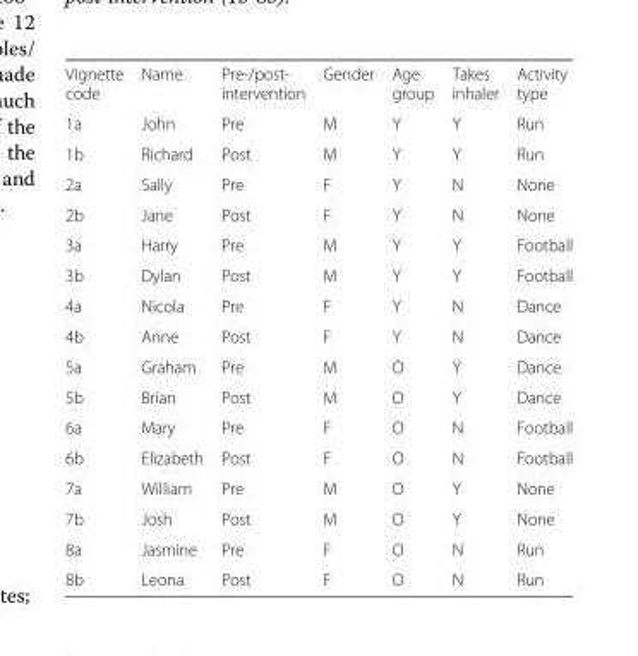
<table><tbody><tr><td>Vignette code</td><td>Name</td><td>Pre-/post- intervention</td><td>Gender</td><td>Age group</td><td>Takes inhaler</td><td>Activity type</td></tr><tr><td>1a</td><td>John</td><td>Pre</td><td>M</td><td>Y</td><td>Y</td><td>Run</td></tr><tr><td>1b</td><td>Richard</td><td>Post</td><td>M</td><td>Y</td><td>Y</td><td>Run</td></tr><tr><td>2a</td><td>Sally</td><td>Pre</td><td>F</td><td>Y</td><td>N</td><td>None</td></tr><tr><td>2b</td><td>Jane</td><td>Post</td><td>F</td><td>Y</td><td>N</td><td>None</td></tr><tr><td>3a</td><td>Harry</td><td>Pre</td><td>M</td><td>Y</td><td>Y</td><td>Football</td></tr><tr><td>3b</td><td>Dylan</td><td>Post</td><td>M</td><td>Y</td><td>Y</td><td>Football</td></tr><tr><td>4a</td><td>Nicola</td><td>Pre</td><td>F</td><td>Y</td><td>N</td><td>Dance</td></tr><tr><td>4b</td><td>Anne</td><td>Post</td><td>F</td><td>Y</td><td>N</td><td>Dance</td></tr><tr><td>5a</td><td>Graham</td><td>Pre</td><td>M</td><td>O</td><td>Y</td><td>Dance</td></tr><tr><td>5b</td><td>Brian</td><td>Post</td><td>M</td><td>O</td><td>Y</td><td>Dance</td></tr><tr><td>6a</td><td>Mary</td><td>Pre</td><td>F</td><td>O</td><td>N</td><td>Football</td></tr><tr><td>6b</td><td>Elizabeth</td><td>Post</td><td>F</td><td>O</td><td>N</td><td>Football</td></tr><tr><td>7a</td><td>William</td><td>Pre</td><td>M</td><td>O</td><td>Y</td><td>None</td></tr><tr><td>7b</td><td>Josh</td><td>Post</td><td>M</td><td>O</td><td>Y</td><td>None</td></tr><tr><td>8a</td><td>Jasmine</td><td>Pre</td><td>F</td><td>O</td><td>N</td><td>Run</td></tr><tr><td>8b</td><td>Leona</td><td>Post</td><td>F</td><td>O</td><td>N</td><td>Run</td></tr></tbody></table>